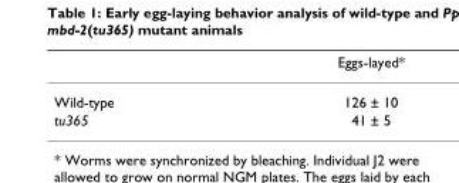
<table><thead><tr><td></td><td>Eggs-layed*</td></tr></thead><tbody><tr><td>Wild-type</td><td>126 ± 10</td></tr><tr><td>tu365</td><td>41 ± 5</td></tr></tbody></table>